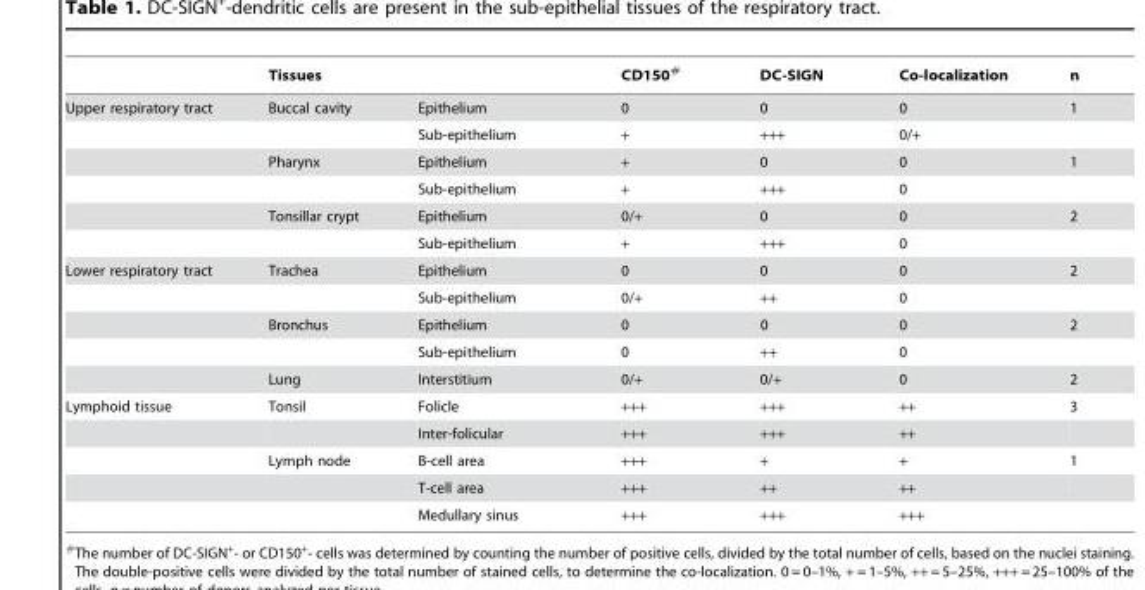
<table><thead><tr><td></td><td>Tissues</td><td></td><td>CD150#</td><td>DC-SIGN</td><td>Co-localization</td><td>n</td></tr></thead><tbody><tr><td rowspan="6">Upper respiratory tract</td><td>Buccal cavity</td><td>Epithelium</td><td>0</td><td>0</td><td>0</td><td>1</td></tr><tr><td></td><td>Sub-epithelium</td><td>+</td><td>+++</td><td>0/+</td><td></td></tr><tr><td>Pharynx</td><td>Epithelium</td><td>+</td><td>0</td><td>0</td><td>1</td></tr><tr><td></td><td>Sub-epithelium</td><td>+</td><td>+++</td><td>0</td><td></td></tr><tr><td>Tonsillar crypt</td><td>Epithelium</td><td>0/+</td><td>0</td><td>0</td><td>2</td></tr><tr><td></td><td>Sub-epithelium</td><td>+</td><td>+++</td><td>0</td><td></td></tr><tr><td rowspan="5">Lower respiratory tract</td><td>Trachea</td><td>Epithelium</td><td>0</td><td>0</td><td>0</td><td>2</td></tr><tr><td></td><td>Sub-epithelium</td><td>0/+</td><td>++</td><td>0</td><td></td></tr><tr><td>Bronchus</td><td>Epithelium</td><td>0</td><td>0</td><td>0</td><td>2</td></tr><tr><td></td><td>Sub-epithelium</td><td>0</td><td>++</td><td>0</td><td></td></tr><tr><td>Lung</td><td>Interstitium</td><td>0/+</td><td>0/+</td><td>0</td><td>2</td></tr><tr><td rowspan="5">Lymphoid tissue</td><td>Tonsil</td><td>Folicle</td><td>+++</td><td>+++</td><td>++</td><td>3</td></tr><tr><td></td><td>Inter-folicular</td><td>+++</td><td>+++</td><td>++</td><td></td></tr><tr><td>Lymph node</td><td>B-cell area</td><td>+++</td><td>+</td><td>+</td><td>1</td></tr><tr><td></td><td>T-cell area</td><td>+++</td><td>++</td><td>++</td><td></td></tr><tr><td></td><td>Medullary sinus</td><td>+++</td><td>+++</td><td>+++</td><td></td></tr></tbody></table>